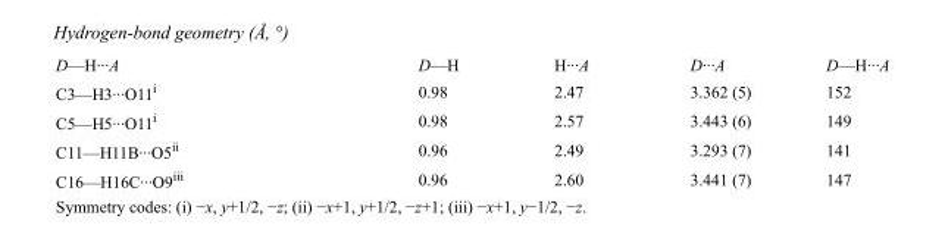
<table><tbody><tr><td>D—H···A</td><td>D—H</td><td>H···A</td><td>D···A</td><td>D—H···A</td></tr><tr><td>C3—H3···O11<sup>i</sup></td><td>0.98</td><td>2.47</td><td>3.362 (5)</td><td>152</td></tr><tr><td>C5—H5···O11<sup>i</sup></td><td>0.98</td><td>2.57</td><td>3.443 (6)</td><td>149</td></tr><tr><td>C11—H11B···O5<sup>ii</sup></td><td>0.96</td><td>2.49</td><td>3.293 (7)</td><td>141</td></tr><tr><td>C16—H16C···O9<sup>iii</sup></td><td>0.96</td><td>2.60</td><td>3.441 (7)</td><td>147</td></tr></tbody></table>